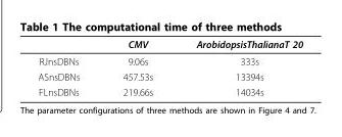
<table><thead><tr><td></td><td>CMV</td><td>ArobidopsisThalianaT 20</td></tr></thead><tbody><tr><td>RJnsDBNs</td><td>9.06s</td><td>333s</td></tr><tr><td>ASnsDBNs</td><td>457.53s</td><td>13394s</td></tr><tr><td>FLnsDBNs</td><td>219.66s</td><td>14034s</td></tr></tbody></table>